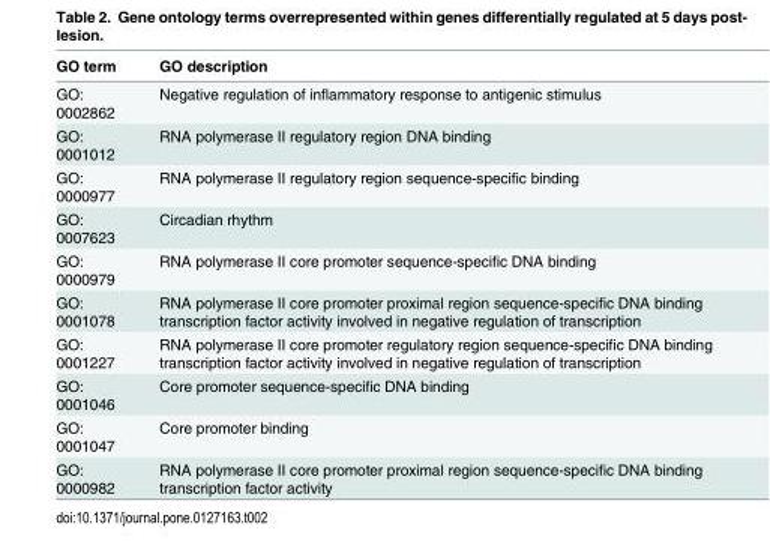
<table><thead><tr><td>GO term</td><td>GO description</td></tr></thead><tbody><tr><td>GO: 0002862</td><td>Negative regulation of inflammatory response to antigenic stimulus</td></tr><tr><td>GO: 0001012</td><td>RNA polymerase II regulatory region DNA binding</td></tr><tr><td>GO: 0000977</td><td>RNA polymerase II regulatory region sequence-specific binding</td></tr><tr><td>GO: 0007623</td><td>Circadian rhythm</td></tr><tr><td>GO: 0000979</td><td>RNA polymerase II core promoter sequence-specific DNA binding</td></tr><tr><td>GO: 0001078</td><td>RNA polymerase II core promoter proximal region sequence-specific DNA binding transcription factor activity involved in negative regulation of transcription</td></tr><tr><td>GO: 0001227</td><td>RNA polymerase II core promoter regulatory region sequence-specific DNA binding transcription factor activity involved in negative regulation of transcription</td></tr><tr><td>GO: 0001046</td><td>Core promoter sequence-specific DNA binding</td></tr><tr><td>GO: 0001047</td><td>Core promoter binding</td></tr><tr><td>GO: 0000982</td><td>RNA polymerase II core promoter proximal region sequence-specific DNA binding transcription factor activity</td></tr></tbody></table>